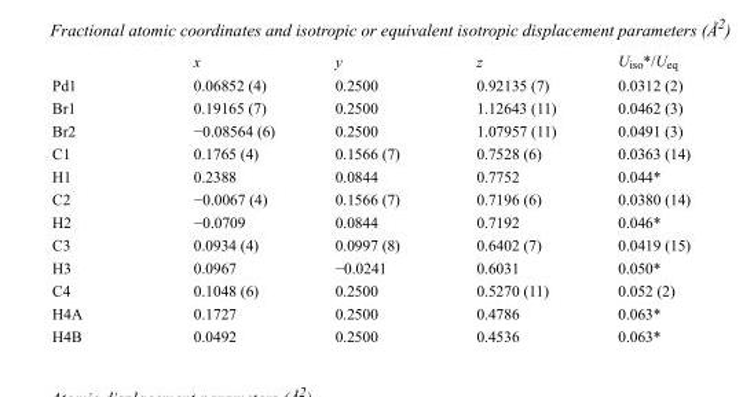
<table><thead><tr><td></td><td>x</td><td>y</td><td>z</td><td>U<sub>iso</sub>*/U<sub>eq</sub></td></tr></thead><tbody><tr><td>Pd1</td><td>0.06852 (4)</td><td>0.2500</td><td>0.92135 (7)</td><td>0.0312 (2)</td></tr><tr><td>Br1</td><td>0.19165 (7)</td><td>0.2500</td><td>1.12643 (11)</td><td>0.0462 (3)</td></tr><tr><td>Br2</td><td>−0.08564 (6)</td><td>0.2500</td><td>1.07957 (11)</td><td>0.0491 (3)</td></tr><tr><td>C1</td><td>0.1765 (4)</td><td>0.1566 (7)</td><td>0.7528 (6)</td><td>0.0363 (14)</td></tr><tr><td>H1</td><td>0.2388</td><td>0.0844</td><td>0.7752</td><td>0.044*</td></tr><tr><td>C2</td><td>−0.0067 (4)</td><td>0.1566 (7)</td><td>0.7196 (6)</td><td>0.0380 (14)</td></tr><tr><td>H2</td><td>−0.0709</td><td>0.0844</td><td>0.7192</td><td>0.046*</td></tr><tr><td>C3</td><td>0.0934 (4)</td><td>0.0997 (8)</td><td>0.6402 (7)</td><td>0.0419 (15)</td></tr><tr><td>H3</td><td>0.0967</td><td>−0.0241</td><td>0.6031</td><td>0.050*</td></tr><tr><td>C4</td><td>0.1048 (6)</td><td>0.2500</td><td>0.5270 (11)</td><td>0.052 (2)</td></tr><tr><td>H4A</td><td>0.1727</td><td>0.2500</td><td>0.4786</td><td>0.063*</td></tr><tr><td>H4B</td><td>0.0492</td><td>0.2500</td><td>0.4536</td><td>0.063*</td></tr></tbody></table>